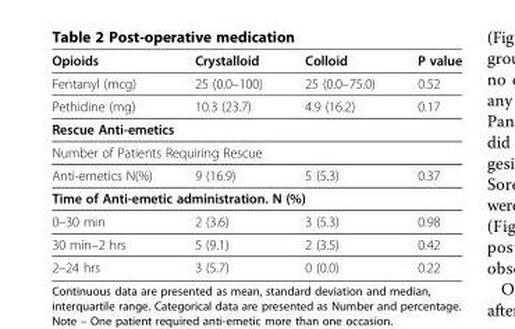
<table><thead><tr><td>Opioids</td><td>Crystalloid</td><td>Colloid</td><td>P value</td></tr></thead><tbody><tr><td>Fentanyl (mcg)</td><td>25 (0.0–100)</td><td>25 (0.0–75.0)</td><td>0.52</td></tr><tr><td>Pethidine (mg)</td><td>10.3 (23.7)</td><td>4.9 (16.2)</td><td>0.17</td></tr><tr><td colspan="4">Rescue Anti-emetics</td></tr><tr><td colspan="4">Number of Patients Requiring Rescue</td></tr><tr><td>Anti-emetics N(%)</td><td>9 (16.9)</td><td>5 (5.3)</td><td>0.37</td></tr><tr><td colspan="4">Time of Anti-emetic administration. N (%)</td></tr><tr><td>0–30 min</td><td>2 (3.6)</td><td>3 (5.3)</td><td>0.98</td></tr><tr><td>30 min–2 hrs</td><td>5 (9.1)</td><td>2 (3.5)</td><td>0.42</td></tr><tr><td>2–24 hrs</td><td>3 (5.7)</td><td>0 (0.0)</td><td>0.22</td></tr></tbody></table>